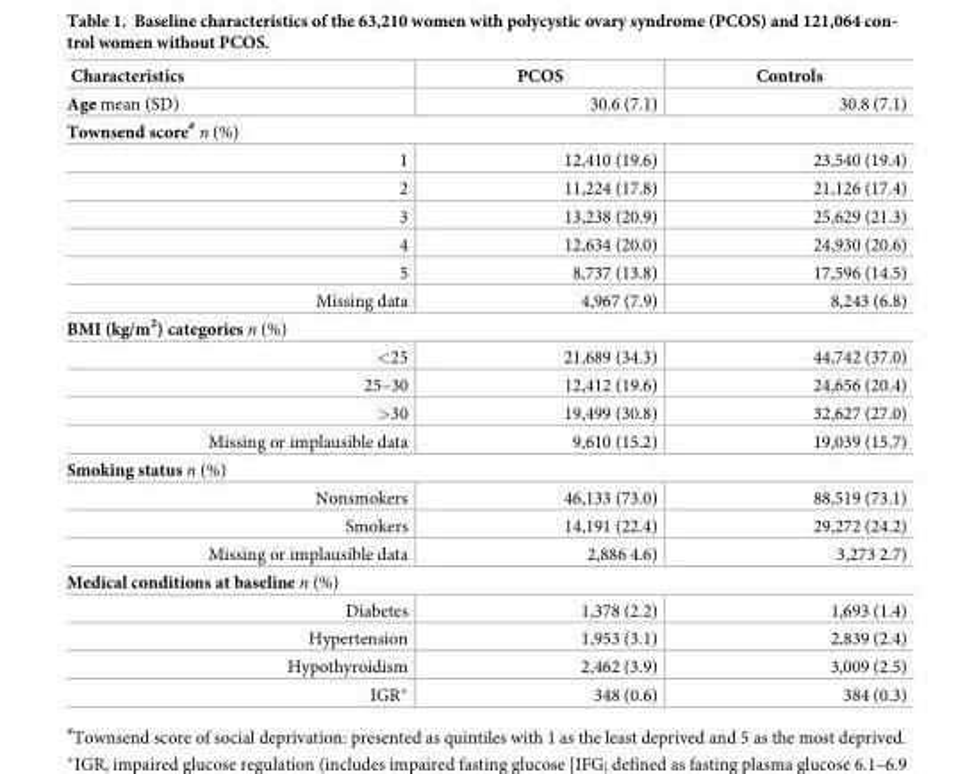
<table><thead><tr><td>Characteristics</td><td>PCOS</td><td>Controls</td></tr></thead><tbody><tr><td>Age mean (SD)</td><td>30.6 (7.1)</td><td>30.8 (7.1)</td></tr><tr><td colspan="3">Townsend score<sup>#</sup> n (%)</td></tr><tr><td>1</td><td>12,410 (19.6)</td><td>23,540 (19.4)</td></tr><tr><td>2</td><td>11,224 (17.8)</td><td>21,126 (17.4)</td></tr><tr><td>3</td><td>13,238 (20.9)</td><td>25,629 (21.3)</td></tr><tr><td>4</td><td>12,634 (20.0)</td><td>24,930 (20.6)</td></tr><tr><td>5</td><td>8,737 (13.8)</td><td>17,596 (14.5)</td></tr><tr><td>Missing data</td><td>4,967 (7.9)</td><td>8,243 (6.8)</td></tr><tr><td colspan="3">BMI (kg/m<sup>2</sup>) categories n (%)</td></tr><tr><td>&lt;25</td><td>21,689 (34.3)</td><td>44,742 (37.0)</td></tr><tr><td>25–30</td><td>12,412 (19.6)</td><td>24,656 (20.4)</td></tr><tr><td>&gt;30</td><td>19,499 (30.8)</td><td>32,627 (27.0)</td></tr><tr><td>Missing or implausible data</td><td>9,610 (15.2)</td><td>19,039 (15.7)</td></tr><tr><td colspan="3">Smoking status n (%)</td></tr><tr><td>Nonsmokers</td><td>46,133 (73.0)</td><td>88,519 (73.1)</td></tr><tr><td>Smokers</td><td>14,191 (22.4)</td><td>29,272 (24.2)</td></tr><tr><td>Missing or implausible data</td><td>2,886 4.6)</td><td>3,273 2.7)</td></tr><tr><td colspan="3">Medical conditions at baseline n (%)</td></tr><tr><td>Diabetes</td><td>1,378 (2.2)</td><td>1,693 (1.4)</td></tr><tr><td>Hypertension</td><td>1,953 (3.1)</td><td>2,839 (2.4)</td></tr><tr><td>Hypothyroidism</td><td>2,462 (3.9)</td><td>3,009 (2.5)</td></tr><tr><td>IGR*</td><td>348 (0.6)</td><td>384 (0.3)</td></tr></tbody></table>